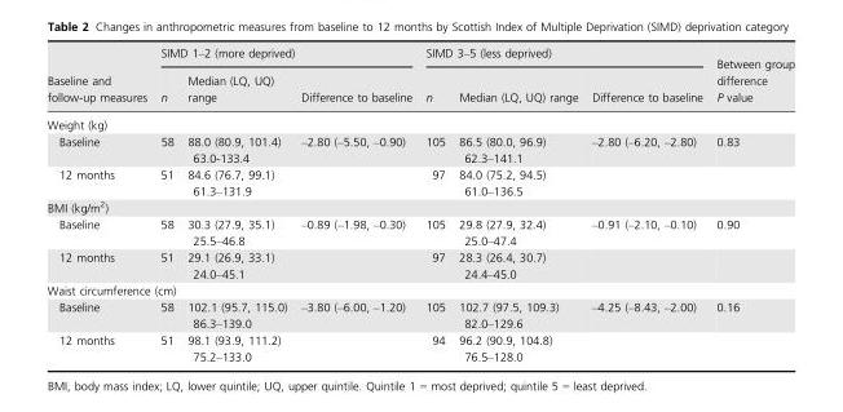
<table><thead><tr><td rowspan="2">Baseline and follow-up measures</td><td colspan="3">SIMD 1–2 (more deprived)</td><td colspan="3">SIMD 3–5 (less deprived)</td><td rowspan="2">Between group difference P value</td></tr><tr><td>n</td><td>Median (LQ, UQ) range</td><td>Difference to baseline</td><td>n</td><td>Median (LQ, UQ) range</td><td>Difference to baseline</td></tr></thead><tbody><tr><td colspan="8">Weight (kg)</td></tr><tr><td>Baseline</td><td>58</td><td>88.0 (80.9, 101.4) 63.0-133.4</td><td rowspan="2">–2.80 (–5.50, –0.90)</td><td>105</td><td>86.5 (80.0, 96.9) 62.3–141.1</td><td rowspan="2">–2.80 (–6.20, –2.80)</td><td rowspan="2">0.83</td></tr><tr><td>12 months</td><td>51</td><td>84.6 (76.7, 99.1) 61.3–131.9</td><td>97</td><td>84.0 (75.2, 94.5) 61.0–136.5</td></tr><tr><td colspan="8">BMI (kg/m<sup>2</sup>)</td></tr><tr><td>Baseline</td><td>58</td><td>30.3 (27.9, 35.1) 25.5–46.8</td><td rowspan="2">–0.89 (–1.98, –0.30)</td><td>105</td><td>29.8 (27.9, 32.4) 25.0–47.4</td><td rowspan="2">–0.91 (–2.10, –0.10)</td><td rowspan="2">0.90</td></tr><tr><td>12 months</td><td>51</td><td>29.1 (26.9, 33.1) 24.0–45.1</td><td>97</td><td>28.3 (26.4, 30.7) 24.4–45.0</td></tr><tr><td colspan="8">Waist circumference (cm)</td></tr><tr><td>Baseline</td><td>58</td><td>102.1 (95.7, 115.0) 86.3–139.0</td><td rowspan="2">–3.80 (–6.00, –1.20)</td><td>105</td><td>102.7 (97.5, 109.3) 82.0–129.6</td><td rowspan="2">–4.25 (–8.43, –2.00)</td><td rowspan="2">0.16</td></tr><tr><td>12 months</td><td>51</td><td>98.1 (93.9, 111.2) 75.2–133.0</td><td>94</td><td>96.2 (90.9, 104.8) 76.5–128.0</td></tr></tbody></table>